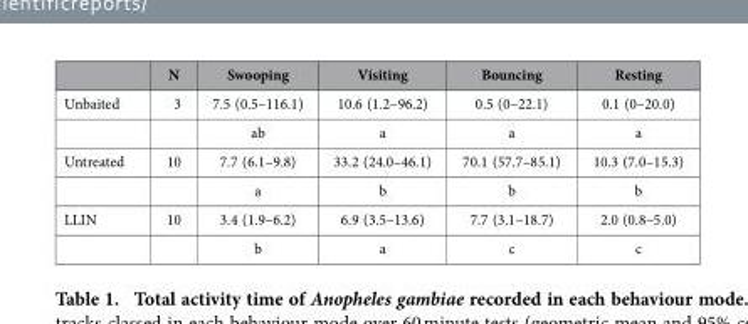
<table><thead><tr><td></td><td>N</td><td>Swooping</td><td>Visiting</td><td>Bouncing</td><td>Resting</td></tr></thead><tbody><tr><td rowspan="2">Unbaited</td><td>3</td><td>7.5 (0.5–116.1)</td><td>10.6 (1.2–96.2)</td><td>0.5 (0–22.1)</td><td>0.1 (0–20.0)</td></tr><tr><td></td><td>ab</td><td>a</td><td>a</td><td>a</td></tr><tr><td rowspan="2">Untreated</td><td>10</td><td>7.7 (6.1–9.8)</td><td>33.2 (24.0–46.1)</td><td>70.1 (57.7–85.1)</td><td>10.3 (7.0–15.3)</td></tr><tr><td></td><td>a</td><td>b</td><td>b</td><td>b</td></tr><tr><td rowspan="2">LLIN</td><td>10</td><td>3.4 (1.9–6.2)</td><td>6.9 (3.5–13.6)</td><td>7.7 (3.1–18.7)</td><td>2.0 (0.8–5.0)</td></tr><tr><td></td><td>b</td><td>a</td><td>c</td><td>c</td></tr></tbody></table>